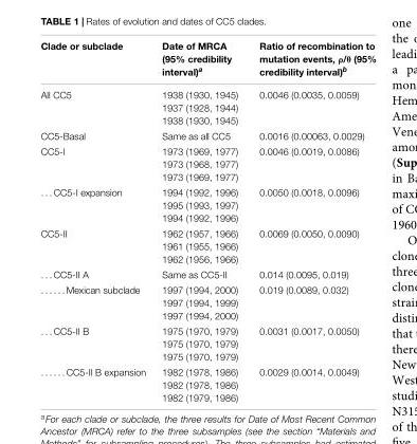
<table><thead><tr><td>Clade or subclade</td><td>Date of MRCA (95% credibility interval)<sup>a</sup></td><td>Ratio of recombination to mutation events, ρ/θ (95% credibility interval)<sup>b</sup></td></tr></thead><tbody><tr><td>All CC5</td><td>1938 (1930, 1945) 1937 (1928, 1944) 1938 (1930, 1945)</td><td>0.0046 (0.0035, 0.0059)</td></tr><tr><td>CC5-Basal</td><td>Same as all CC5</td><td>0.0016 (0.00063, 0.0029)</td></tr><tr><td>CC5-I</td><td>1973 (1969, 1977) 1973 (1968, 1977) 1973 (1969, 1977)</td><td>0.0046 (0.0019, 0.0086)</td></tr><tr><td>. . . CC5-I expansion</td><td>1994 (1992, 1996) 1995 (1993, 1997) 1994 (1992, 1996)</td><td>0.0050 (0.0018, 0.0096)</td></tr><tr><td>CC5-II</td><td>1962 (1957, 1966) 1961 (1955, 1966) 1962 (1956, 1966)</td><td>0.0069 (0.0050, 0.0090)</td></tr><tr><td>. . . CC5-II A</td><td>Same as CC5-II</td><td>0.014 (0.0095, 0.019)</td></tr><tr><td>. . . . . . Mexican subclade</td><td>1997 (1994, 2000) 1997 (1994, 1999) 1997 (1994, 2000)</td><td>0.019 (0.0089, 0.032)</td></tr><tr><td>. . . CC5-II B</td><td>1975 (1970, 1979) 1975 (1970, 1979) 1975 (1970, 1979)</td><td>0.0031 (0.0017, 0.0050)</td></tr><tr><td>. . . . . . CC5-II B expansion</td><td>1982 (1978, 1986) 1982 (1978, 1986) 1982 (1979, 1986)</td><td>0.0029 (0.0014, 0.0049)</td></tr></tbody></table>